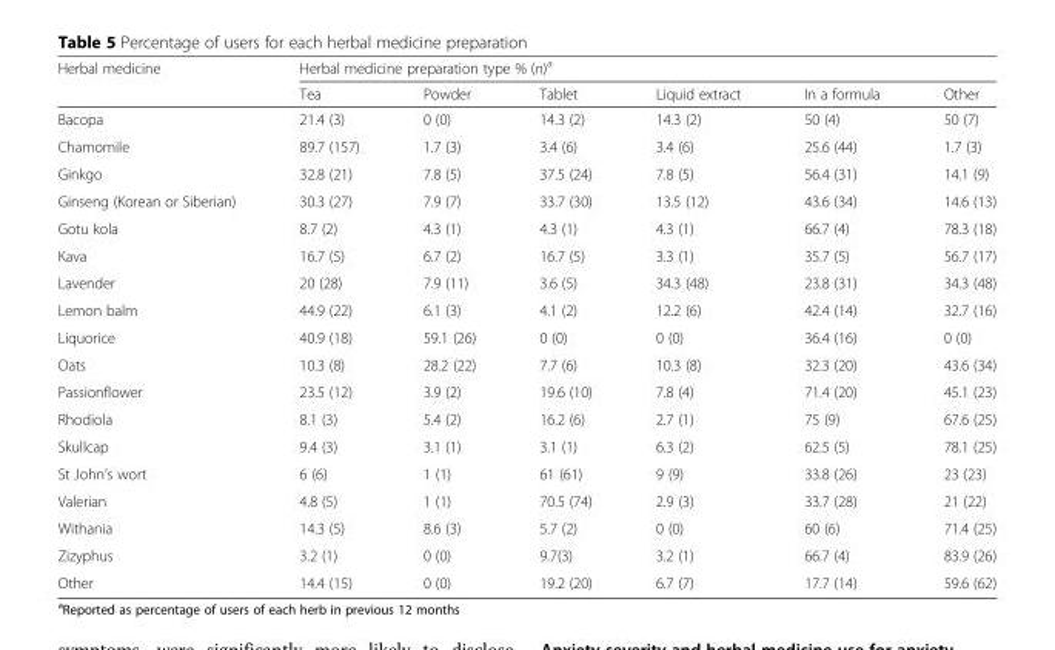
<table><thead><tr><td rowspan="2">Herbal medicine</td><td colspan="6">Herbal medicine preparation type % (n)<sup>a</sup></td></tr><tr><td>Tea</td><td>Powder</td><td>Tablet</td><td>Liquid extract</td><td>In a formula</td><td>Other</td></tr></thead><tbody><tr><td>Bacopa</td><td>21.4 (3)</td><td>0 (0)</td><td>14.3 (2)</td><td>14.3 (2)</td><td>50 (4)</td><td>50 (7)</td></tr><tr><td>Chamomile</td><td>89.7 (157)</td><td>1.7 (3)</td><td>3.4 (6)</td><td>3.4 (6)</td><td>25.6 (44)</td><td>1.7 (3)</td></tr><tr><td>Ginkgo</td><td>32.8 (21)</td><td>7.8 (5)</td><td>37.5 (24)</td><td>7.8 (5)</td><td>56.4 (31)</td><td>14.1 (9)</td></tr><tr><td>Ginseng (Korean or Siberian)</td><td>30.3 (27)</td><td>7.9 (7)</td><td>33.7 (30)</td><td>13.5 (12)</td><td>43.6 (34)</td><td>14.6 (13)</td></tr><tr><td>Gotu kola</td><td>8.7 (2)</td><td>4.3 (1)</td><td>4.3 (1)</td><td>4.3 (1)</td><td>66.7 (4)</td><td>78.3 (18)</td></tr><tr><td>Kava</td><td>16.7 (5)</td><td>6.7 (2)</td><td>16.7 (5)</td><td>3.3 (1)</td><td>35.7 (5)</td><td>56.7 (17)</td></tr><tr><td>Lavender</td><td>20 (28)</td><td>7.9 (11)</td><td>3.6 (5)</td><td>34.3 (48)</td><td>23.8 (31)</td><td>34.3 (48)</td></tr><tr><td>Lemon balm</td><td>44.9 (22)</td><td>6.1 (3)</td><td>4.1 (2)</td><td>12.2 (6)</td><td>42.4 (14)</td><td>32.7 (16)</td></tr><tr><td>Liquorice</td><td>40.9 (18)</td><td>59.1 (26)</td><td>0 (0)</td><td>0 (0)</td><td>36.4 (16)</td><td>0 (0)</td></tr><tr><td>Oats</td><td>10.3 (8)</td><td>28.2 (22)</td><td>7.7 (6)</td><td>10.3 (8)</td><td>32.3 (20)</td><td>43.6 (34)</td></tr><tr><td>Passionflower</td><td>23.5 (12)</td><td>3.9 (2)</td><td>19.6 (10)</td><td>7.8 (4)</td><td>71.4 (20)</td><td>45.1 (23)</td></tr><tr><td>Rhodiola</td><td>8.1 (3)</td><td>5.4 (2)</td><td>16.2 (6)</td><td>2.7 (1)</td><td>75 (9)</td><td>67.6 (25)</td></tr><tr><td>Skullcap</td><td>9.4 (3)</td><td>3.1 (1)</td><td>3.1 (1)</td><td>6.3 (2)</td><td>62.5 (5)</td><td>78.1 (25)</td></tr><tr><td>St John’s wort</td><td>6 (6)</td><td>1 (1)</td><td>61 (61)</td><td>9 (9)</td><td>33.8 (26)</td><td>23 (23)</td></tr><tr><td>Valerian</td><td>4.8 (5)</td><td>1 (1)</td><td>70.5 (74)</td><td>2.9 (3)</td><td>33.7 (28)</td><td>21 (22)</td></tr><tr><td>Withania</td><td>14.3 (5)</td><td>8.6 (3)</td><td>5.7 (2)</td><td>0 (0)</td><td>60 (6)</td><td>71.4 (25)</td></tr><tr><td>Zizyphus</td><td>3.2 (1)</td><td>0 (0)</td><td>9.7(3)</td><td>3.2 (1)</td><td>66.7 (4)</td><td>83.9 (26)</td></tr><tr><td>Other</td><td>14.4 (15)</td><td>0 (0)</td><td>19.2 (20)</td><td>6.7 (7)</td><td>17.7 (14)</td><td>59.6 (62)</td></tr></tbody></table>